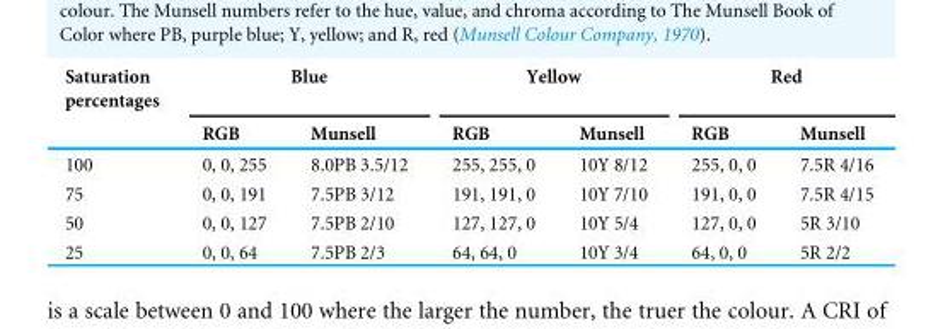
<table><thead><tr><td rowspan="2">Saturation percentages</td><td colspan="2">Blue</td><td colspan="2">Yellow</td><td colspan="2">Red</td></tr><tr><td>RGB</td><td>Munsell</td><td>RGB</td><td>Munsell</td><td>RGB</td><td>Munsell</td></tr></thead><tbody><tr><td>100</td><td>0, 0, 255</td><td>8.0PB 3.5/12</td><td>255, 255, 0</td><td>10Y 8/12</td><td>255, 0, 0</td><td>7.5R 4/16</td></tr><tr><td>75</td><td>0, 0, 191</td><td>7.5PB 3/12</td><td>191, 191, 0</td><td>10Y 7/10</td><td>191, 0, 0</td><td>7.5R 4/15</td></tr><tr><td>50</td><td>0, 0, 127</td><td>7.5PB 2/10</td><td>127, 127, 0</td><td>10Y 5/4</td><td>127, 0, 0</td><td>5R 3/10</td></tr><tr><td>25</td><td>0, 0, 64</td><td>7.5PB 2/3</td><td>64, 64, 0</td><td>10Y 3/4</td><td>64, 0, 0</td><td>5R 2/2</td></tr></tbody></table>